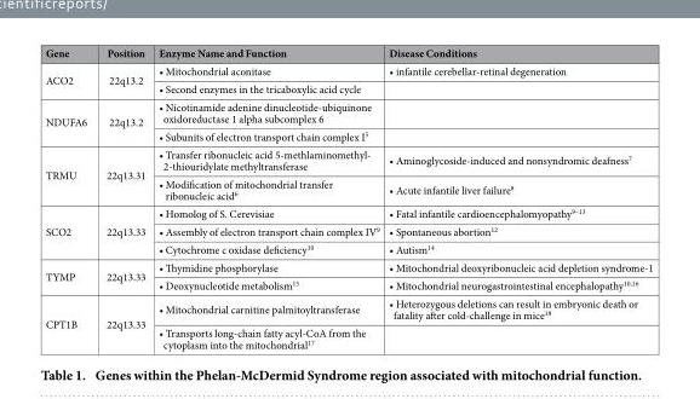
<table><thead><tr><td>Gene</td><td>Position</td><td>Enzyme Name and Function</td><td>Disease Conditions</td></tr></thead><tbody><tr><td rowspan="2">ACO2</td><td rowspan="2">22q13.2</td><td>• Mitochondrial aconitase</td><td>• infantile cerebellar-retinal degeneration</td></tr><tr><td>• Second enzymes in the tricaboxylic acid cycle</td><td></td></tr><tr><td rowspan="2">NDUFA6</td><td rowspan="2">22q13.2</td><td>• Nicotinamide adenine dinucleotide-ubiquinone oxidoreductase 1 alpha subcomplex 6</td><td></td></tr><tr><td>• Subunits of electron transport chain complex I<sup>5</sup></td><td></td></tr><tr><td rowspan="2">TRMU</td><td rowspan="2">22q13.31</td><td>• Transfer ribonucleic acid 5-methlaminomethyl- 2-thiouridylate methyltransferase</td><td>• Aminoglycoside-induced and nonsyndromic deafness<sup>7</sup></td></tr><tr><td>• Modification of mitochondrial transfer ribonucleic acid<sup>6</sup></td><td>• Acute infantile liver failure<sup>8</sup></td></tr><tr><td rowspan="3">SCO2</td><td rowspan="3">22q13.33</td><td>• Homolog of S. Cerevisiae</td><td>• Fatal infantile cardioencephalomyopathy9–13</td></tr><tr><td>• Assembly of electron transport chain complex IV<sup>9</sup></td><td>• Spontaneous abortion<sup>12</sup></td></tr><tr><td>• Cytochrome c oxidase deficiency<sup>10</sup></td><td>• Autism<sup>14</sup></td></tr><tr><td rowspan="2">TYMP</td><td rowspan="2">22q13.33</td><td>• Thymidine phosphorylase</td><td>• Mitochondrial deoxyribonucleic acid depletion syndrome-1</td></tr><tr><td>• Deoxynucleotide metabolism<sup>15</sup></td><td>• Mitochondrial neurogastrointestinal encephalopathy<sup>10</sup>,<sup>16</sup></td></tr><tr><td rowspan="2">CPT1B</td><td rowspan="2">22q13.33</td><td>• Mitochondrial carnitine palmitoyltransferase</td><td>• Heterozygous deletions can result in embryonic death or fatality after cold-challenge in mice<sup>18</sup></td></tr><tr><td>• Transports long-chain fatty acyl-CoA from the cytoplasm into the mitochondrial<sup>17</sup></td><td></td></tr></tbody></table>